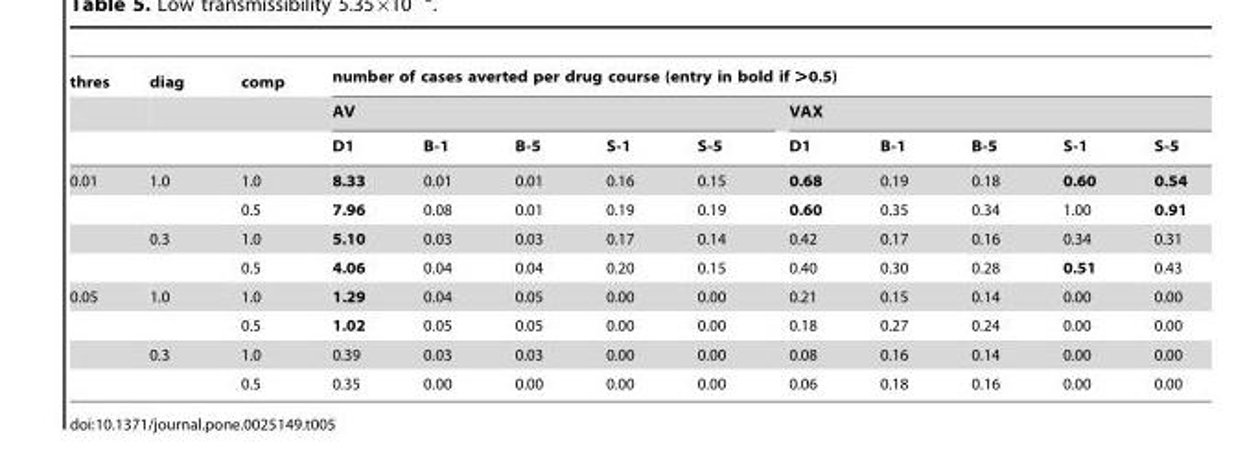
<table><thead><tr><td rowspan="3">thres</td><td rowspan="3">diag</td><td rowspan="3">comp</td><td colspan="10">number of cases averted per drug course (entry in bold if &gt;0.5)</td></tr><tr><td colspan="5">AV</td><td colspan="5">VAX</td></tr><tr><td>D1</td><td>B-1</td><td>B-5</td><td>S-1</td><td>S-5</td><td>D1</td><td>B-1</td><td>B-5</td><td>S-1</td><td>S-5</td></tr></thead><tbody><tr><td rowspan="4">0.01</td><td>1.0</td><td>1.0</td><td>8.33</td><td>0.01</td><td>0.01</td><td>0.16</td><td>0.15</td><td>0.68</td><td>0.19</td><td>0.18</td><td>0.60</td><td>0.54</td></tr><tr><td></td><td>0.5</td><td>7.96</td><td>0.08</td><td>0.01</td><td>0.19</td><td>0.19</td><td>0.60</td><td>0.35</td><td>0.34</td><td>1.00</td><td>0.91</td></tr><tr><td>0.3</td><td>1.0</td><td>5.10</td><td>0.03</td><td>0.03</td><td>0.17</td><td>0.14</td><td>0.42</td><td>0.17</td><td>0.16</td><td>0.34</td><td>0.31</td></tr><tr><td></td><td>0.5</td><td>4.06</td><td>0.04</td><td>0.04</td><td>0.20</td><td>0.15</td><td>0.40</td><td>0.30</td><td>0.28</td><td>0.51</td><td>0.43</td></tr><tr><td rowspan="4">0.05</td><td>1.0</td><td>1.0</td><td>1.29</td><td>0.04</td><td>0.05</td><td>0.00</td><td>0.00</td><td>0.21</td><td>0.15</td><td>0.14</td><td>0.00</td><td>0.00</td></tr><tr><td></td><td>0.5</td><td>1.02</td><td>0.05</td><td>0.05</td><td>0.00</td><td>0.00</td><td>0.18</td><td>0.27</td><td>0.24</td><td>0.00</td><td>0.00</td></tr><tr><td>0.3</td><td>1.0</td><td>0.39</td><td>0.03</td><td>0.03</td><td>0.00</td><td>0.00</td><td>0.08</td><td>0.16</td><td>0.14</td><td>0.00</td><td>0.00</td></tr><tr><td></td><td>0.5</td><td>0.35</td><td>0.00</td><td>0.00</td><td>0.00</td><td>0.00</td><td>0.06</td><td>0.18</td><td>0.16</td><td>0.00</td><td>0.00</td></tr></tbody></table>